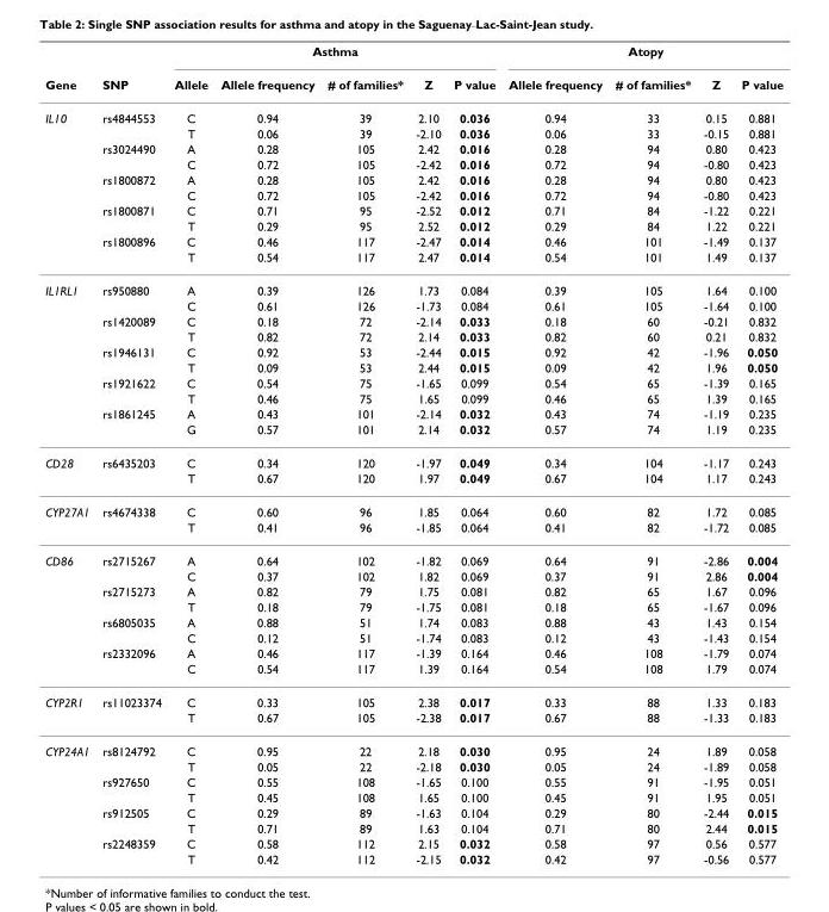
<table><thead><tr><td rowspan="2">Gene</td><td rowspan="2">SNP</td><td colspan="5">Asthma</td><td colspan="4">Atopy</td></tr><tr><td>Allele</td><td>Allele frequency</td><td># of families*</td><td>Z</td><td>P value</td><td>Allele frequency</td><td># of families*</td><td>Z</td><td>P value</td></tr></thead><tbody><tr><td rowspan="10">IL10</td><td>rs4844553</td><td>C</td><td>0.94</td><td>39</td><td>2.10</td><td>0.036</td><td>0.94</td><td>33</td><td>0.15</td><td>0.881</td></tr><tr><td></td><td>T</td><td>0.06</td><td>39</td><td>-2.10</td><td>0.036</td><td>0.06</td><td>33</td><td>-0.15</td><td>0.881</td></tr><tr><td>rs3024490</td><td>A</td><td>0.28</td><td>105</td><td>2.42</td><td>0.016</td><td>0.28</td><td>94</td><td>0.80</td><td>0.423</td></tr><tr><td></td><td>C</td><td>0.72</td><td>105</td><td>-2.42</td><td>0.016</td><td>0.72</td><td>94</td><td>-0.80</td><td>0.423</td></tr><tr><td>rs1800872</td><td>A</td><td>0.28</td><td>105</td><td>2.42</td><td>0.016</td><td>0.28</td><td>94</td><td>0.80</td><td>0.423</td></tr><tr><td></td><td>C</td><td>0.72</td><td>105</td><td>-2.42</td><td>0.016</td><td>0.72</td><td>94</td><td>-0.80</td><td>0.423</td></tr><tr><td>rs1800871</td><td>C</td><td>0.71</td><td>95</td><td>-2.52</td><td>0.012</td><td>0.71</td><td>84</td><td>-1.22</td><td>0.221</td></tr><tr><td></td><td>T</td><td>0.29</td><td>95</td><td>2.52</td><td>0.012</td><td>0.29</td><td>84</td><td>1.22</td><td>0.221</td></tr><tr><td>rs1800896</td><td>C</td><td>0.46</td><td>117</td><td>-2.47</td><td>0.014</td><td>0.46</td><td>101</td><td>-1.49</td><td>0.137</td></tr><tr><td></td><td>T</td><td>0.54</td><td>117</td><td>2.47</td><td>0.014</td><td>0.54</td><td>101</td><td>1.49</td><td>0.137</td></tr><tr><td rowspan="10">IL1RL1</td><td>rs950880</td><td>A</td><td>0.39</td><td>126</td><td>1.73</td><td>0.084</td><td>0.39</td><td>105</td><td>1.64</td><td>0.100</td></tr><tr><td></td><td>C</td><td>0.61</td><td>126</td><td>-1.73</td><td>0.084</td><td>0.61</td><td>105</td><td>-1.64</td><td>0.100</td></tr><tr><td>rs1420089</td><td>C</td><td>0.18</td><td>72</td><td>-2.14</td><td>0.033</td><td>0.18</td><td>60</td><td>-0.21</td><td>0.832</td></tr><tr><td></td><td>T</td><td>0.82</td><td>72</td><td>2.14</td><td>0.033</td><td>0.82</td><td>60</td><td>0.21</td><td>0.832</td></tr><tr><td>rs1946131</td><td>C</td><td>0.92</td><td>53</td><td>-2.44</td><td>0.015</td><td>0.92</td><td>42</td><td>-1.96</td><td>0.050</td></tr><tr><td></td><td>T</td><td>0.09</td><td>53</td><td>2.44</td><td>0.015</td><td>0.09</td><td>42</td><td>1.96</td><td>0.050</td></tr><tr><td>rs1921622</td><td>C</td><td>0.54</td><td>75</td><td>-1.65</td><td>0.099</td><td>0.54</td><td>65</td><td>-1.39</td><td>0.165</td></tr><tr><td></td><td>T</td><td>0.46</td><td>75</td><td>1.65</td><td>0.099</td><td>0.46</td><td>65</td><td>1.39</td><td>0.165</td></tr><tr><td>rs1861245</td><td>A</td><td>0.43</td><td>101</td><td>-2.14</td><td>0.032</td><td>0.43</td><td>74</td><td>-1.19</td><td>0.235</td></tr><tr><td></td><td>G</td><td>0.57</td><td>101</td><td>2.14</td><td>0.032</td><td>0.57</td><td>74</td><td>1.19</td><td>0.235</td></tr><tr><td rowspan="2">CD28</td><td>rs6435203</td><td>C</td><td>0.34</td><td>120</td><td>-1.97</td><td>0.049</td><td>0.34</td><td>104</td><td>-1.17</td><td>0.243</td></tr><tr><td></td><td>T</td><td>0.67</td><td>120</td><td>1.97</td><td>0.049</td><td>0.67</td><td>104</td><td>1.17</td><td>0.243</td></tr><tr><td rowspan="2">CYP27A1</td><td>rs4674338</td><td>C</td><td>0.60</td><td>96</td><td>1.85</td><td>0.064</td><td>0.60</td><td>82</td><td>1.72</td><td>0.085</td></tr><tr><td></td><td>T</td><td>0.41</td><td>96</td><td>-1.85</td><td>0.064</td><td>0.41</td><td>82</td><td>-1.72</td><td>0.085</td></tr><tr><td rowspan="8">CD86</td><td>rs2715267</td><td>A</td><td>0.64</td><td>102</td><td>-1.82</td><td>0.069</td><td>0.64</td><td>91</td><td>-2.86</td><td>0.004</td></tr><tr><td></td><td>C</td><td>0.37</td><td>102</td><td>1.82</td><td>0.069</td><td>0.37</td><td>91</td><td>2.86</td><td>0.004</td></tr><tr><td>rs2715273</td><td>A</td><td>0.82</td><td>79</td><td>1.75</td><td>0.081</td><td>0.82</td><td>65</td><td>1.67</td><td>0.096</td></tr><tr><td></td><td>T</td><td>0.18</td><td>79</td><td>-1.75</td><td>0.081</td><td>0.18</td><td>65</td><td>-1.67</td><td>0.096</td></tr><tr><td>rs6805035</td><td>A</td><td>0.88</td><td>51</td><td>1.74</td><td>0.083</td><td>0.88</td><td>43</td><td>1.43</td><td>0.154</td></tr><tr><td></td><td>C</td><td>0.12</td><td>51</td><td>-1.74</td><td>0.083</td><td>0.12</td><td>43</td><td>-1.43</td><td>0.154</td></tr><tr><td>rs2332096</td><td>A</td><td>0.46</td><td>117</td><td>-1.39</td><td>0.164</td><td>0.46</td><td>108</td><td>-1.79</td><td>0.074</td></tr><tr><td></td><td>C</td><td>0.54</td><td>117</td><td>1.39</td><td>0.164</td><td>0.54</td><td>108</td><td>1.79</td><td>0.074</td></tr><tr><td rowspan="2">CYP2R1</td><td>rs11023374</td><td>C</td><td>0.33</td><td>105</td><td>2.38</td><td>0.017</td><td>0.33</td><td>88</td><td>1.33</td><td>0.183</td></tr><tr><td></td><td>T</td><td>0.67</td><td>105</td><td>-2.38</td><td>0.017</td><td>0.67</td><td>88</td><td>-1.33</td><td>0.183</td></tr><tr><td rowspan="8">CYP24A1</td><td>rs8124792</td><td>C</td><td>0.95</td><td>22</td><td>2.18</td><td>0.030</td><td>0.95</td><td>24</td><td>1.89</td><td>0.058</td></tr><tr><td></td><td>T</td><td>0.05</td><td>22</td><td>-2.18</td><td>0.030</td><td>0.05</td><td>24</td><td>-1.89</td><td>0.058</td></tr><tr><td>rs927650</td><td>C</td><td>0.55</td><td>108</td><td>-1.65</td><td>0.100</td><td>0.55</td><td>91</td><td>-1.95</td><td>0.051</td></tr><tr><td></td><td>T</td><td>0.45</td><td>108</td><td>1.65</td><td>0.100</td><td>0.45</td><td>91</td><td>1.95</td><td>0.051</td></tr><tr><td>rs912505</td><td>C</td><td>0.29</td><td>89</td><td>-1.63</td><td>0.104</td><td>0.29</td><td>80</td><td>-2.44</td><td>0.015</td></tr><tr><td></td><td>T</td><td>0.71</td><td>89</td><td>1.63</td><td>0.104</td><td>0.71</td><td>80</td><td>2.44</td><td>0.015</td></tr><tr><td>rs2248359</td><td>C</td><td>0.58</td><td>112</td><td>2.15</td><td>0.032</td><td>0.58</td><td>97</td><td>0.56</td><td>0.577</td></tr><tr><td></td><td>T</td><td>0.42</td><td>112</td><td>-2.15</td><td>0.032</td><td>0.42</td><td>97</td><td>-0.56</td><td>0.577</td></tr></tbody></table>